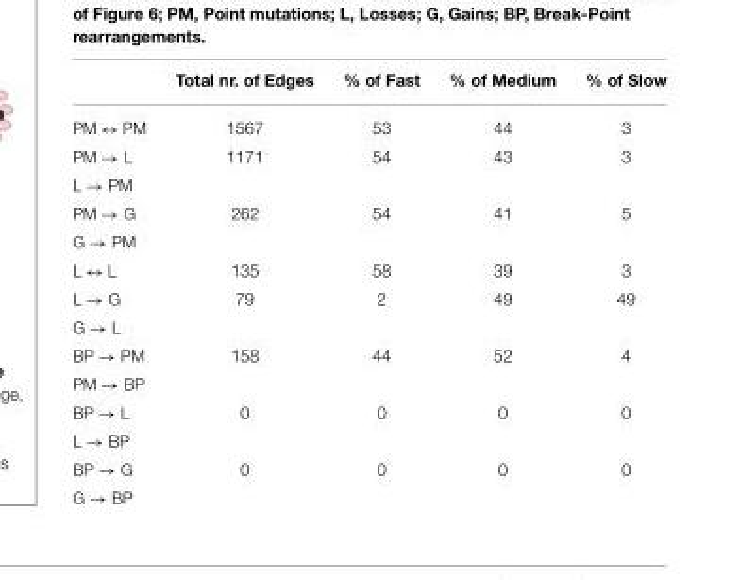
<table><thead><tr><td></td><td>Total nr. of Edges</td><td>% of Fast</td><td>% of Medium</td><td>% of Slow</td></tr></thead><tbody><tr><td>PM ↔ PM</td><td>1567</td><td>53</td><td>44</td><td>3</td></tr><tr><td>PM → L</td><td>1171</td><td>54</td><td>43</td><td>3</td></tr><tr><td colspan="5">L → PM</td></tr><tr><td>PM → G</td><td>262</td><td>54</td><td>41</td><td>5</td></tr><tr><td colspan="5">G → PM</td></tr><tr><td>L ↔ L</td><td>135</td><td>58</td><td>39</td><td>3</td></tr><tr><td>L → G</td><td>79</td><td>2</td><td>49</td><td>49</td></tr><tr><td colspan="5">G → L</td></tr><tr><td>BP → PM</td><td>158</td><td>44</td><td>52</td><td>4</td></tr><tr><td colspan="5">PM → BP</td></tr><tr><td>BP → L</td><td>0</td><td>0</td><td>0</td><td>0</td></tr><tr><td colspan="5">L → BP</td></tr><tr><td>BP → G</td><td>0</td><td>0</td><td>0</td><td>0</td></tr><tr><td>G → BP</td><td></td><td></td><td></td><td></td></tr></tbody></table>